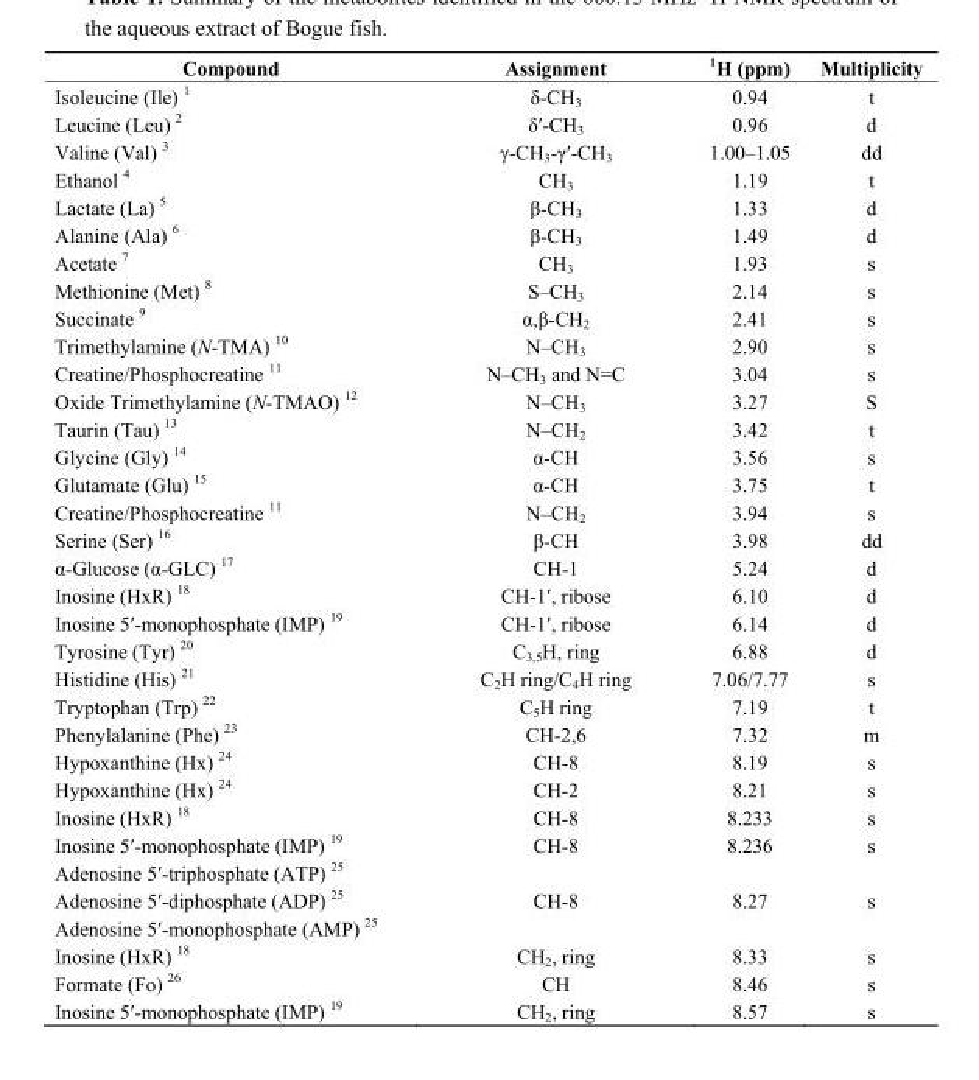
<table><thead><tr><td>Compound</td><td>Assignment</td><td><sup>1</sup>H (ppm)</td><td>Multiplicity</td></tr></thead><tbody><tr><td>Isoleucine (Ile) <sup>1</sup></td><td>δ-CH<sub>3</sub></td><td>0.94</td><td>t</td></tr><tr><td>Leucine (Leu) <sup>2</sup></td><td>δ′-CH<sub>3</sub></td><td>0.96</td><td>d</td></tr><tr><td>Valine (Val) <sup>3</sup></td><td>γ-CH<sub>3</sub>-γ′-CH<sub>3</sub></td><td>1.00–1.05</td><td>dd</td></tr><tr><td>Ethanol <sup>4</sup></td><td>CH<sub>3</sub></td><td>1.19</td><td>t</td></tr><tr><td>Lactate (La) <sup>5</sup></td><td>β-CH<sub>3</sub></td><td>1.33</td><td>d</td></tr><tr><td>Alanine (Ala) <sup>6</sup></td><td>β-CH<sub>3</sub></td><td>1.49</td><td>d</td></tr><tr><td>Acetate <sup>7</sup></td><td>CH<sub>3</sub></td><td>1.93</td><td>s</td></tr><tr><td>Methionine (Met) <sup>8</sup></td><td>S–CH<sub>3</sub></td><td>2.14</td><td>s</td></tr><tr><td>Succinate <sup>9</sup></td><td>α,β-CH<sub>2</sub></td><td>2.41</td><td>s</td></tr><tr><td>Trimethylamine (N-TMA) <sup>10</sup></td><td>N–CH<sub>3</sub></td><td>2.90</td><td>s</td></tr><tr><td>Creatine/Phosphocreatine <sup>11</sup></td><td>N–CH<sub>3</sub> and N=C</td><td>3.04</td><td>s</td></tr><tr><td>Oxide Trimethylamine (N-TMAO) <sup>12</sup></td><td>N–CH<sub>3</sub></td><td>3.27</td><td>S</td></tr><tr><td>Taurin (Tau) <sup>13</sup></td><td>N–CH<sub>2</sub></td><td>3.42</td><td>t</td></tr><tr><td>Glycine (Gly) <sup>14</sup></td><td>α-CH</td><td>3.56</td><td>s</td></tr><tr><td>Glutamate (Glu) <sup>15</sup></td><td>α-CH</td><td>3.75</td><td>t</td></tr><tr><td>Creatine/Phosphocreatine <sup>11</sup></td><td>N–CH<sub>2</sub></td><td>3.94</td><td>s</td></tr><tr><td>Serine (Ser) <sup>16</sup></td><td>β-CH</td><td>3.98</td><td>dd</td></tr><tr><td>α-Glucose (α-GLC) <sup>17</sup></td><td>CH-1</td><td>5.24</td><td>d</td></tr><tr><td>Inosine (HxR) <sup>18</sup></td><td>CH-1′, ribose</td><td>6.10</td><td>d</td></tr><tr><td>Inosine 5′-monophosphate (IMP) <sup>19</sup></td><td>CH-1′, ribose</td><td>6.14</td><td>d</td></tr><tr><td>Tyrosine (Tyr) <sup>20</sup></td><td>C<sub>3,5</sub>H, ring</td><td>6.88</td><td>d</td></tr><tr><td>Histidine (His) <sup>21</sup></td><td>C<sub>2</sub>H ring/C<sub>4</sub>H ring</td><td>7.06/7.77</td><td>s</td></tr><tr><td>Tryptophan (Trp) <sup>22</sup></td><td>C<sub>5</sub>H ring</td><td>7.19</td><td>t</td></tr><tr><td>Phenylalanine (Phe) <sup>23</sup></td><td>CH-2,6</td><td>7.32</td><td>m</td></tr><tr><td>Hypoxanthine (Hx) <sup>24</sup></td><td>CH-8</td><td>8.19</td><td>s</td></tr><tr><td>Hypoxanthine (Hx) <sup>24</sup></td><td>CH-2</td><td>8.21</td><td>s</td></tr><tr><td>Inosine (HxR) <sup>18</sup></td><td>CH-8</td><td>8.233</td><td>s</td></tr><tr><td>Inosine 5′-monophosphate (IMP) <sup>19</sup></td><td>CH-8</td><td>8.236</td><td>s</td></tr><tr><td>Adenosine 5′-triphosphate (ATP) <sup>25</sup></td><td rowspan="3">CH-8</td><td rowspan="3">8.27</td><td rowspan="3">s</td></tr><tr><td>Adenosine 5′-diphosphate (ADP) <sup>25</sup></td></tr><tr><td>Adenosine 5′-monophosphate (AMP) <sup>25</sup></td></tr><tr><td>Inosine (HxR) <sup>18</sup></td><td>CH<sub>2</sub>, ring</td><td>8.33</td><td>s</td></tr><tr><td>Formate (Fo) <sup>26</sup></td><td>CH</td><td>8.46</td><td>s</td></tr><tr><td>Inosine 5′-monophosphate (IMP) <sup>19</sup></td><td>CH<sub>2</sub>, ring</td><td>8.57</td><td>s</td></tr></tbody></table>